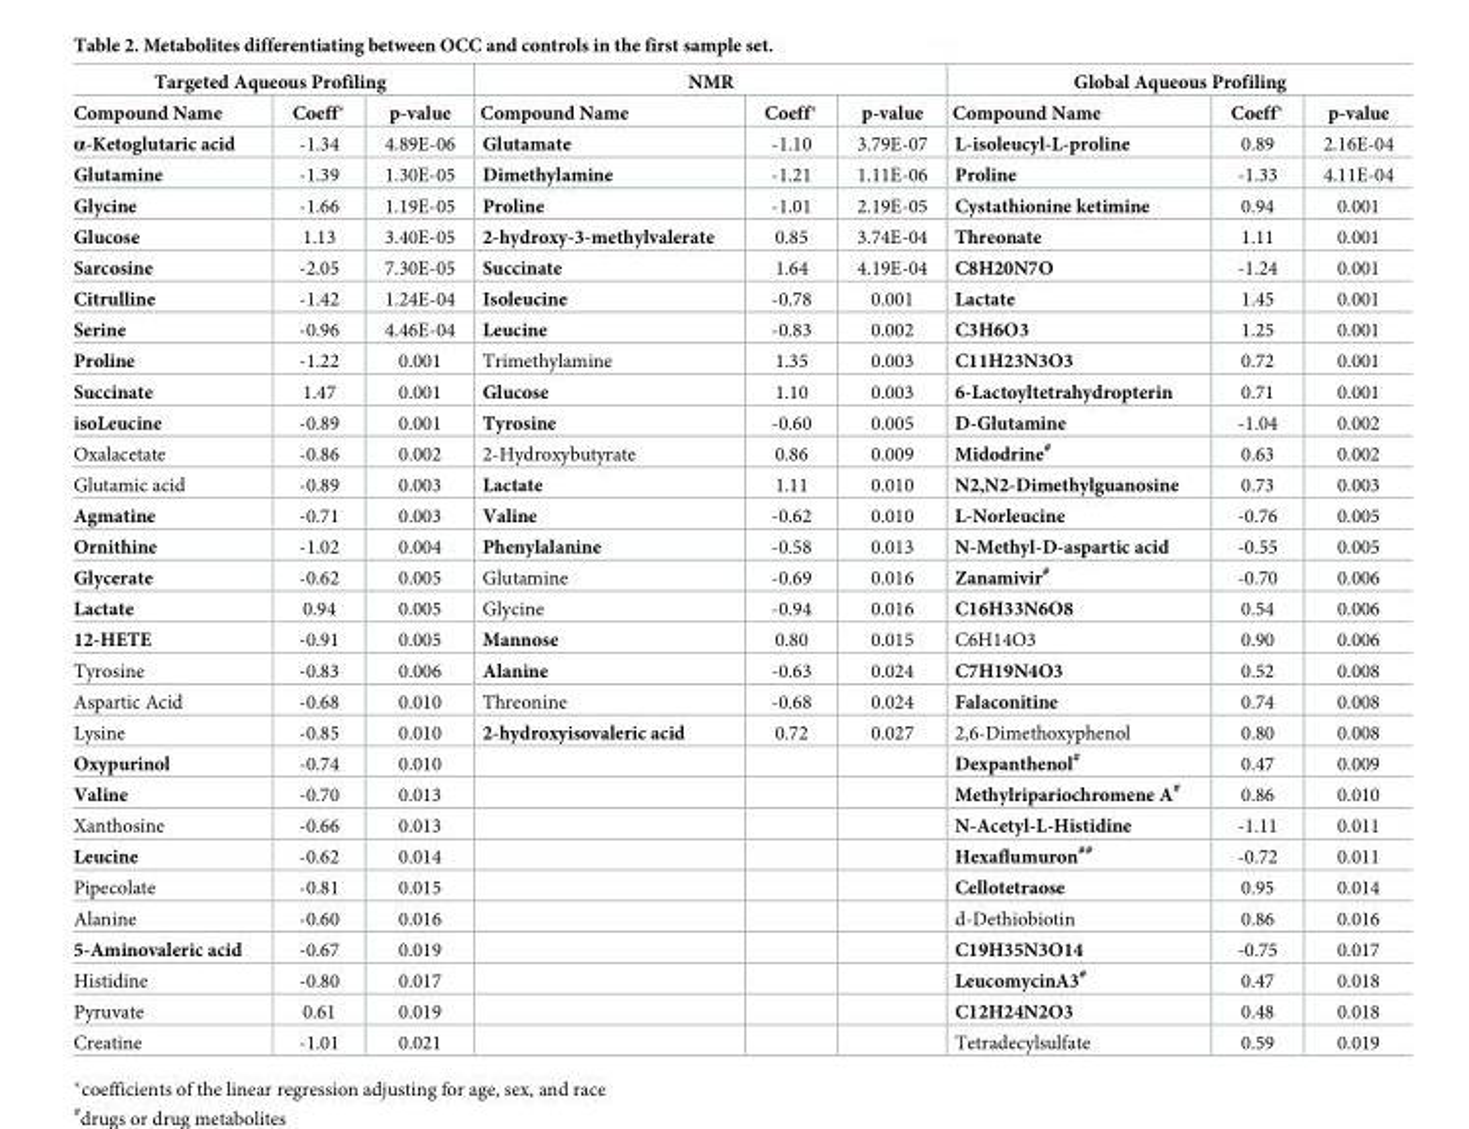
<table><thead><tr><td colspan="3">Targeted Aqueous Profiling</td><td colspan="3">NMR</td><td colspan="3">Global Aqueous Profiling</td></tr><tr><td>Compound Name</td><td>Coeff*</td><td>p-value</td><td>Compound Name</td><td>Coeff*</td><td>p-value</td><td>Compound Name</td><td>Coeff*</td><td>p-value</td></tr></thead><tbody><tr><td>α-Ketoglutaric acid</td><td>-1.34</td><td>4.89E-06</td><td>Glutamate</td><td>-1.10</td><td>3.79E-07</td><td>L-isoleucyl-L-proline</td><td>0.89</td><td>2.16E-04</td></tr><tr><td>Glutamine</td><td>-1.39</td><td>1.30E-05</td><td>Dimethylamine</td><td>-1.21</td><td>1.11E-06</td><td>Proline</td><td>-1.33</td><td>4.11E-04</td></tr><tr><td>Glycine</td><td>-1.66</td><td>1.19E-05</td><td>Proline</td><td>-1.01</td><td>2.19E-05</td><td>Cystathionine ketimine</td><td>0.94</td><td>0.001</td></tr><tr><td>Glucose</td><td>1.13</td><td>3.40E-05</td><td>2-hydroxy-3-methylvalerate</td><td>0.85</td><td>3.74E-04</td><td>Threonate</td><td>1.11</td><td>0.001</td></tr><tr><td>Sarcosine</td><td>-2.05</td><td>7.30E-05</td><td>Succinate</td><td>1.64</td><td>4.19E-04</td><td>C8H20N7O</td><td>-1.24</td><td>0.001</td></tr><tr><td>Citrulline</td><td>-1.42</td><td>1.24E-04</td><td>Isoleucine</td><td>-0.78</td><td>0.001</td><td>Lactate</td><td>1.45</td><td>0.001</td></tr><tr><td>Serine</td><td>-0.96</td><td>4.46E-04</td><td>Leucine</td><td>-0.83</td><td>0.002</td><td>C3H6O3</td><td>1.25</td><td>0.001</td></tr><tr><td>Proline</td><td>-1.22</td><td>0.001</td><td>Trimethylamine</td><td>1.35</td><td>0.003</td><td>C11H23N3O3</td><td>0.72</td><td>0.001</td></tr><tr><td>Succinate</td><td>1.47</td><td>0.001</td><td>Glucose</td><td>1.10</td><td>0.003</td><td>6-Lactoyltetrahydropterin</td><td>0.71</td><td>0.001</td></tr><tr><td>isoLeucine</td><td>-0.89</td><td>0.001</td><td>Tyrosine</td><td>-0.60</td><td>0.005</td><td>D-Glutamine</td><td>-1.04</td><td>0.002</td></tr><tr><td>Oxalacetate</td><td>-0.86</td><td>0.002</td><td>2-Hydroxybutyrate</td><td>0.86</td><td>0.009</td><td>Midodrine<sup>#</sup></td><td>0.63</td><td>0.002</td></tr><tr><td>Glutamic acid</td><td>-0.89</td><td>0.003</td><td>Lactate</td><td>1.11</td><td>0.010</td><td>N2,N2-Dimethylguanosine</td><td>0.73</td><td>0.003</td></tr><tr><td>Agmatine</td><td>-0.71</td><td>0.003</td><td>Valine</td><td>-0.62</td><td>0.010</td><td>L-Norleucine</td><td>-0.76</td><td>0.005</td></tr><tr><td>Ornithine</td><td>-1.02</td><td>0.004</td><td>Phenylalanine</td><td>-0.58</td><td>0.013</td><td>N-Methyl-D-aspartic acid</td><td>-0.55</td><td>0.005</td></tr><tr><td>Glycerate</td><td>-0.62</td><td>0.005</td><td>Glutamine</td><td>-0.69</td><td>0.016</td><td>Zanamivir<sup>#</sup></td><td>-0.70</td><td>0.006</td></tr><tr><td>Lactate</td><td>0.94</td><td>0.005</td><td>Glycine</td><td>-0.94</td><td>0.016</td><td>C16H33N6O8</td><td>0.54</td><td>0.006</td></tr><tr><td>12-HETE</td><td>-0.91</td><td>0.005</td><td>Mannose</td><td>0.80</td><td>0.015</td><td>C6H14O3</td><td>0.90</td><td>0.006</td></tr><tr><td>Tyrosine</td><td>-0.83</td><td>0.006</td><td>Alanine</td><td>-0.63</td><td>0.024</td><td>C7H19N4O3</td><td>0.52</td><td>0.008</td></tr><tr><td>Aspartic Acid</td><td>-0.68</td><td>0.010</td><td>Threonine</td><td>-0.68</td><td>0.024</td><td>Falaconitine</td><td>0.74</td><td>0.008</td></tr><tr><td>Lysine</td><td>-0.85</td><td>0.010</td><td>2-hydroxyisovaleric acid</td><td>0.72</td><td>0.027</td><td>2,6-Dimethoxyphenol</td><td>0.80</td><td>0.008</td></tr><tr><td>Oxypurinol</td><td>-0.74</td><td>0.010</td><td></td><td></td><td></td><td>Dexpanthenol<sup>#</sup></td><td>0.47</td><td>0.009</td></tr><tr><td>Valine</td><td>-0.70</td><td>0.013</td><td></td><td></td><td></td><td>Methylripariochromene A<sup>#</sup></td><td>0.86</td><td>0.010</td></tr><tr><td>Xanthosine</td><td>-0.66</td><td>0.013</td><td></td><td></td><td></td><td>N-Acetyl-L-Histidine</td><td>-1.11</td><td>0.011</td></tr><tr><td>Leucine</td><td>-0.62</td><td>0.014</td><td></td><td></td><td></td><td>Hexaflumuron<sup>##</sup></td><td>-0.72</td><td>0.011</td></tr><tr><td>Pipecolate</td><td>-0.81</td><td>0.015</td><td></td><td></td><td></td><td>Cellotetraose</td><td>0.95</td><td>0.014</td></tr><tr><td>Alanine</td><td>-0.60</td><td>0.016</td><td></td><td></td><td></td><td>d-Dethiobiotin</td><td>0.86</td><td>0.016</td></tr><tr><td>5-Aminovaleric acid</td><td>-0.67</td><td>0.019</td><td></td><td></td><td></td><td>C19H35N3O14</td><td>-0.75</td><td>0.017</td></tr><tr><td>Histidine</td><td>-0.80</td><td>0.017</td><td></td><td></td><td></td><td>LeucomycinA3<sup>#</sup></td><td>0.47</td><td>0.018</td></tr><tr><td>Pyruvate</td><td>0.61</td><td>0.019</td><td></td><td></td><td></td><td>C12H24N2O3</td><td>0.48</td><td>0.018</td></tr><tr><td>Creatine</td><td>-1.01</td><td>0.021</td><td></td><td></td><td></td><td>Tetradecylsulfate</td><td>0.59</td><td>0.019</td></tr></tbody></table>